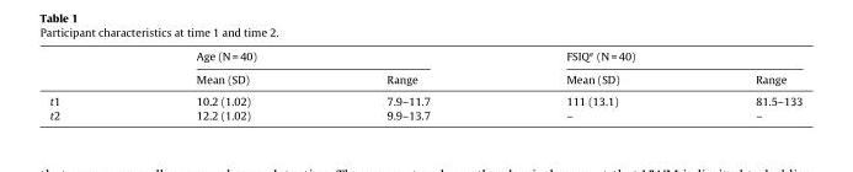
<table><thead><tr><td rowspan="2"></td><td colspan="2">Age (N = 40)</td><td colspan="2">FSIQ<sup>e</sup> (N = 40)</td></tr><tr><td>Mean (SD)</td><td>Range</td><td>Mean (SD)</td><td>Range</td></tr></thead><tbody><tr><td>t1</td><td>10.2 (1.02)</td><td>7.9–11.7</td><td>111 (13.1)</td><td>81.5–133</td></tr><tr><td>t2</td><td>12.2 (1.02)</td><td>9.9–13.7</td><td>–</td><td>–</td></tr></tbody></table>